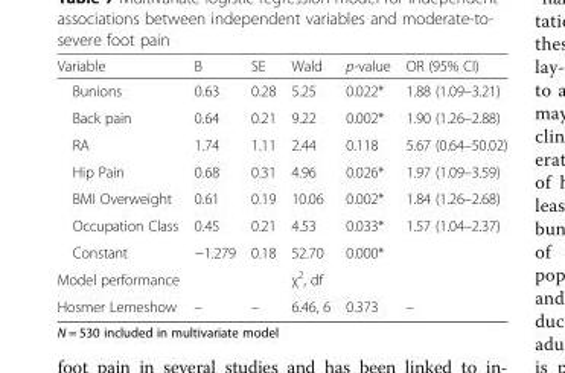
<table><thead><tr><td>Variable</td><td>B</td><td>SE</td><td>Wald</td><td>p-value</td><td>OR (95% CI)</td></tr></thead><tbody><tr><td>Bunions</td><td>0.63</td><td>0.28</td><td>5.25</td><td>0.022*</td><td>1.88 (1.09–3.21)</td></tr><tr><td>Back pain</td><td>0.64</td><td>0.21</td><td>9.22</td><td>0.002*</td><td>1.90 (1.26–2.88)</td></tr><tr><td>RA</td><td>1.74</td><td>1.11</td><td>2.44</td><td>0.118</td><td>5.67 (0.64–50.02)</td></tr><tr><td>Hip Pain</td><td>0.68</td><td>0.31</td><td>4.96</td><td>0.026*</td><td>1.97 (1.09–3.59)</td></tr><tr><td>BMI Overweight</td><td>0.61</td><td>0.19</td><td>10.06</td><td>0.002*</td><td>1.84 (1.26–2.68)</td></tr><tr><td>Occupation Class</td><td>0.45</td><td>0.21</td><td>4.53</td><td>0.033*</td><td>1.57 (1.04–2.37)</td></tr><tr><td>Constant</td><td>−1.279</td><td>0.18</td><td>52.70</td><td>0.000*</td><td></td></tr><tr><td>Model performance</td><td></td><td></td><td>χ<sup>2</sup>, df</td><td></td><td></td></tr><tr><td>Hosmer Lemeshow</td><td>–</td><td>–</td><td>6.46, 6</td><td>0.373</td><td>–</td></tr></tbody></table>